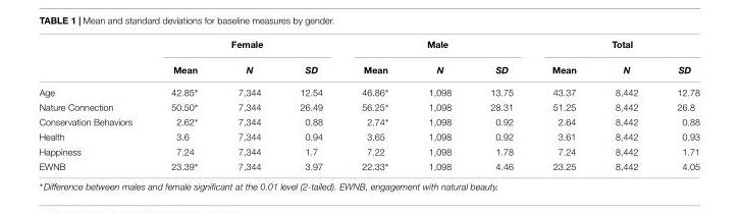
<table><thead><tr><td rowspan="2"></td><td colspan="3">Female</td><td colspan="3">Male</td><td colspan="3">Total</td></tr><tr><td>Mean</td><td>N</td><td>SD</td><td>Mean</td><td>N</td><td>SD</td><td>Mean</td><td>N</td><td>SD</td></tr></thead><tbody><tr><td>Age</td><td>42.85∗</td><td>7,344</td><td>12.54</td><td>46.86∗</td><td>1,098</td><td>13.75</td><td>43.37</td><td>8,442</td><td>12.78</td></tr><tr><td>Nature Connection</td><td>50.50∗</td><td>7,344</td><td>26.49</td><td>56.25∗</td><td>1,098</td><td>28.31</td><td>51.25</td><td>8,442</td><td>26.8</td></tr><tr><td>Conservation Behaviors</td><td>2.62∗</td><td>7,344</td><td>0.88</td><td>2.74∗</td><td>1,098</td><td>0.92</td><td>2.64</td><td>8,442</td><td>0.88</td></tr><tr><td>Health</td><td>3.6</td><td>7,344</td><td>0.94</td><td>3.65</td><td>1,098</td><td>0.92</td><td>3.61</td><td>8,442</td><td>0.93</td></tr><tr><td>Happiness</td><td>7.24</td><td>7,344</td><td>1.7</td><td>7.22</td><td>1,098</td><td>1.78</td><td>7.24</td><td>8,442</td><td>1.71</td></tr><tr><td>EWNB</td><td>23.39∗</td><td>7,344</td><td>3.97</td><td>22.33∗</td><td>1,098</td><td>4.46</td><td>23.25</td><td>8,442</td><td>4.05</td></tr></tbody></table>